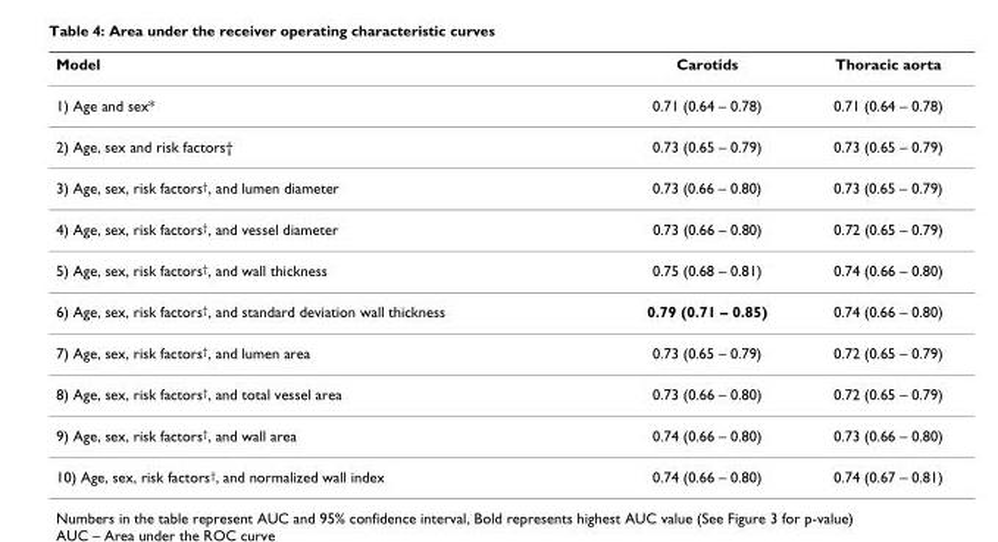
<table><thead><tr><td>Model</td><td>Carotids</td><td>Thoracic aorta</td></tr></thead><tbody><tr><td>1) Age and sex*</td><td>0.71 (0.64 – 0.78)</td><td>0.71 (0.64 – 0.78)</td></tr><tr><td>2) Age, sex and risk factors†</td><td>0.73 (0.65 – 0.79)</td><td>0.73 (0.65 – 0.79)</td></tr><tr><td>3) Age, sex, risk factors<sup>†</sup>, and lumen diameter</td><td>0.73 (0.66 – 0.80)</td><td>0.73 (0.65 – 0.79)</td></tr><tr><td>4) Age, sex, risk factors<sup>†</sup>, and vessel diameter</td><td>0.73 (0.66 – 0.80)</td><td>0.72 (0.65 – 0.79)</td></tr><tr><td>5) Age, sex, risk factors<sup>†</sup>, and wall thickness</td><td>0.75 (0.68 – 0.81)</td><td>0.74 (0.66 – 0.80)</td></tr><tr><td>6) Age, sex, risk factors<sup>†</sup>, and standard deviation wall thickness</td><td>0.79 (0.71 – 0.85)</td><td>0.74 (0.66 – 0.80)</td></tr><tr><td>7) Age, sex, risk factors<sup>†</sup>, and lumen area</td><td>0.73 (0.65 – 0.79)</td><td>0.72 (0.65 – 0.79)</td></tr><tr><td>8) Age, sex, risk factors<sup>†</sup>, and total vessel area</td><td>0.73 (0.66 – 0.80)</td><td>0.72 (0.65 – 0.79)</td></tr><tr><td>9) Age, sex, risk factors<sup>†</sup>, and wall area</td><td>0.74 (0.66 – 0.80)</td><td>0.73 (0.66 – 0.80)</td></tr><tr><td>10) Age, sex, risk factors<sup>†</sup>, and normalized wall index</td><td>0.74 (0.66 – 0.80)</td><td>0.74 (0.67 – 0.81)</td></tr></tbody></table>